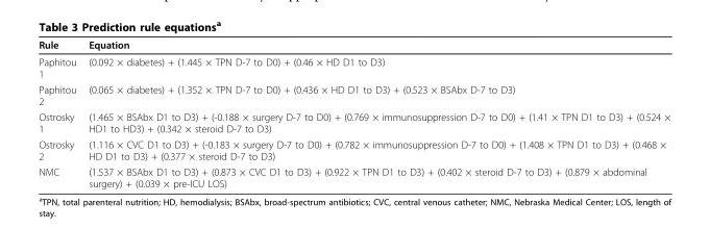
<table><thead><tr><td>Rule</td><td>Equation</td></tr></thead><tbody><tr><td>Paphitou 1</td><td>(0.092 × diabetes) + (1.445 × TPN D-7 to D0) + (0.46 × HD D1 to D3)</td></tr><tr><td>Paphitou 2</td><td>(0.065 × diabetes) + (1.352 × TPN D-7 to D0) + (0.436 × HD D1 to D3) + (0.523 × BSAbx D-7 to D3)</td></tr><tr><td>Ostrosky 1</td><td>(1.465 × BSAbx D1 to D3) + (-0.188 × surgery D-7 to D0) + (0.769 × immunosuppression D-7 to D0) + (1.41 × TPN D1 to D3) + (0.524 × HD1 to HD3) + (0.342 × steroid D-7 to D3)</td></tr><tr><td>Ostrosky 2</td><td>(1.116 × CVC D1 to D3) + (-0.183 × surgery D-7 to D0) + (0.782 × immunosuppression D-7 to D0) + (1.408 × TPN D1 to D3) + (0.468 × HD D1 to D3) + (0.377 × steroid D-7 to D3)</td></tr><tr><td>NMC</td><td>(1.537 × BSAbx D1 to D3) + (0.873 × CVC D1 to D3) + (0.922 × TPN D1 to D3) + (0.402 × steroid D-7 to D3) + (0.879 × abdominal surgery) + (0.039 × pre-ICU LOS)</td></tr></tbody></table>